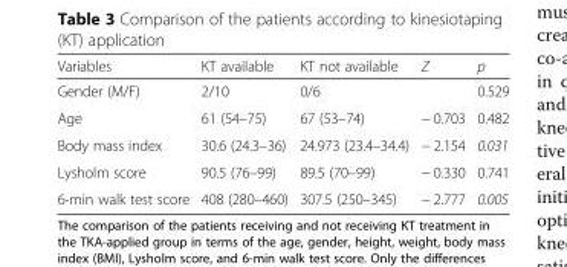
<table><thead><tr><td>Variables</td><td>KT available</td><td>KT not available</td><td>Z</td><td>p</td></tr></thead><tbody><tr><td>Gender (M/F)</td><td>2/10</td><td>0/6</td><td></td><td>0.529</td></tr><tr><td>Age</td><td>61 (54–75)</td><td>67 (53–74)</td><td>− 0.703</td><td>0.482</td></tr><tr><td>Body mass index</td><td>30.6 (24.3–36)</td><td>24.973 (23.4–34.4)</td><td>− 2.154</td><td>0.031</td></tr><tr><td>Lysholm score</td><td>90.5 (76–99)</td><td>89.5 (70–99)</td><td>− 0.330</td><td>0.741</td></tr><tr><td>6-min walk test score</td><td>408 (280–460)</td><td>307.5 (250–345)</td><td>− 2.777</td><td>0.005</td></tr></tbody></table>